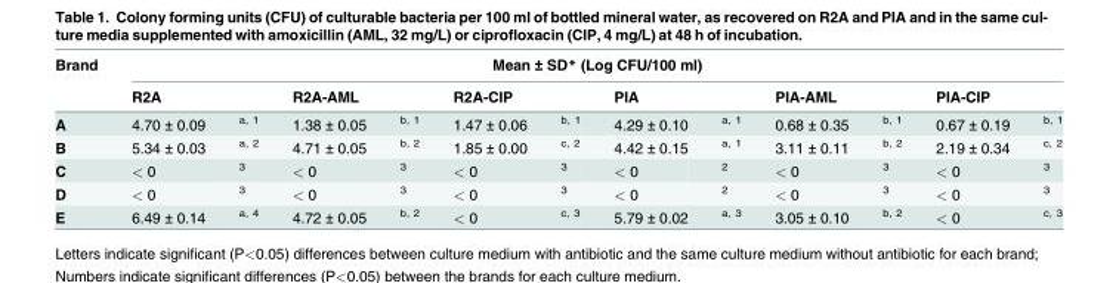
<table><thead><tr><td rowspan="2">Brand</td><td colspan="12">Mean ± SD* (Log CFU/100 ml)</td></tr><tr><td>R2A</td><td></td><td>R2A-AML</td><td></td><td>R2A-CIP</td><td></td><td>PIA</td><td></td><td>PIA-AML</td><td></td><td>PIA-CIP</td><td></td></tr></thead><tbody><tr><td>A</td><td>4.70 ± 0.09</td><td><sup>a, 1</sup></td><td>1.38 ± 0.05</td><td><sup>b, 1</sup></td><td>1.47 ± 0.06</td><td><sup>b, 1</sup></td><td>4.29 ± 0.10</td><td><sup>a, 1</sup></td><td>0.68 ± 0.35</td><td><sup>b, 1</sup></td><td>0.67 ± 0.19</td><td><sup>b, 1</sup></td></tr><tr><td>B</td><td>5.34 ± 0.03</td><td><sup>a, 2</sup></td><td>4.71 ± 0.05</td><td><sup>b, 2</sup></td><td>1.85 ± 0.00</td><td><sup>c, 2</sup></td><td>4.42 ± 0.15</td><td><sup>a, 1</sup></td><td>3.11 ± 0.11</td><td><sup>b, 2</sup></td><td>2.19 ± 0.34</td><td><sup>c, 2</sup></td></tr><tr><td>C</td><td>&lt; 0</td><td><sup>3</sup></td><td>&lt; 0</td><td><sup>3</sup></td><td>&lt; 0</td><td><sup>3</sup></td><td>&lt; 0</td><td><sup>2</sup></td><td>&lt; 0</td><td><sup>3</sup></td><td>&lt; 0</td><td><sup>3</sup></td></tr><tr><td>D</td><td>&lt; 0</td><td><sup>3</sup></td><td>&lt; 0</td><td><sup>3</sup></td><td>&lt; 0</td><td><sup>3</sup></td><td>&lt; 0</td><td><sup>2</sup></td><td>&lt; 0</td><td><sup>3</sup></td><td>&lt; 0</td><td><sup>3</sup></td></tr><tr><td>E</td><td>6.49 ± 0.14</td><td><sup>a, 4</sup></td><td>4.72 ± 0.05</td><td><sup>b, 2</sup></td><td>&lt; 0</td><td><sup>c, 3</sup></td><td>5.79 ± 0.02</td><td><sup>a, 3</sup></td><td>3.05 ± 0.10</td><td><sup>b, 2</sup></td><td>&lt; 0</td><td><sup>c, 3</sup></td></tr></tbody></table>